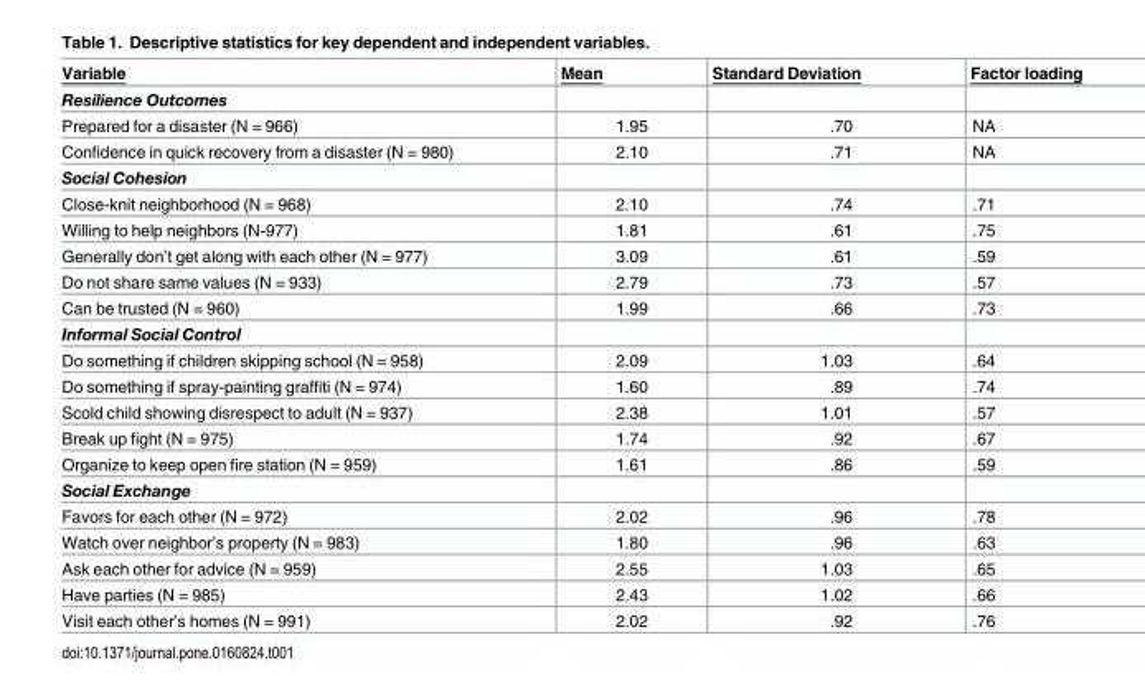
<table><thead><tr><td>Variable</td><td>Mean</td><td>Standard Deviation</td><td>Factor loading</td></tr></thead><tbody><tr><td colspan="4">Resilience Outcomes</td></tr><tr><td>Prepared for a disaster (N = 966)</td><td>1.95</td><td>.70</td><td>NA</td></tr><tr><td>Confidence in quick recovery from a disaster (N = 980)</td><td>2.10</td><td>.71</td><td>NA</td></tr><tr><td colspan="4">Social Cohesion</td></tr><tr><td>Close-knit neighborhood (N = 968)</td><td>2.10</td><td>.74</td><td>.71</td></tr><tr><td>Willing to help neighbors (N-977)</td><td>1.81</td><td>.61</td><td>.75</td></tr><tr><td>Generally don’t get along with each other (N = 977)</td><td>3.09</td><td>.61</td><td>.59</td></tr><tr><td>Do not share same values (N = 933)</td><td>2.79</td><td>.73</td><td>.57</td></tr><tr><td>Can be trusted (N = 960)</td><td>1.99</td><td>.66</td><td>.73</td></tr><tr><td colspan="4">Informal Social Control</td></tr><tr><td>Do something if children skipping school (N = 958)</td><td>2.09</td><td>1.03</td><td>.64</td></tr><tr><td>Do something if spray-painting graffiti (N = 974)</td><td>1.60</td><td>.89</td><td>.74</td></tr><tr><td>Scold child showing disrespect to adult (N = 937)</td><td>2.38</td><td>1.01</td><td>.57</td></tr><tr><td>Break up fight (N = 975)</td><td>1.74</td><td>.92</td><td>.67</td></tr><tr><td>Organize to keep open fire station (N = 959)</td><td>1.61</td><td>.86</td><td>.59</td></tr><tr><td colspan="4">Social Exchange</td></tr><tr><td>Favors for each other (N = 972)</td><td>2.02</td><td>.96</td><td>.78</td></tr><tr><td>Watch over neighbor’s property (N = 983)</td><td>1.80</td><td>.96</td><td>.63</td></tr><tr><td>Ask each other for advice (N = 959)</td><td>2.55</td><td>1.03</td><td>.65</td></tr><tr><td>Have parties (N = 985)</td><td>2.43</td><td>1.02</td><td>.66</td></tr><tr><td>Visit each other’s homes (N = 991)</td><td>2.02</td><td>.92</td><td>.76</td></tr></tbody></table>